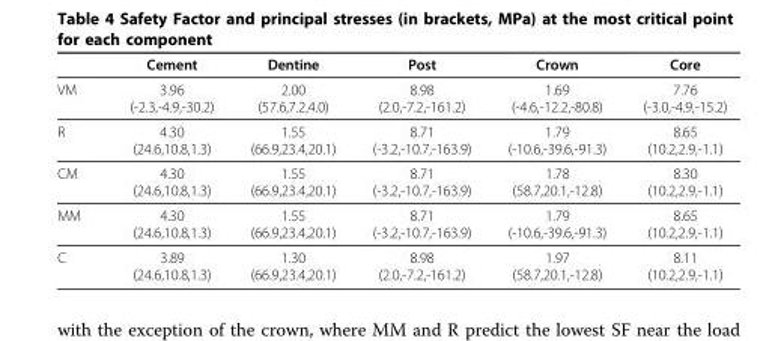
<table><thead><tr><td></td><td>Cement</td><td>Dentine</td><td>Post</td><td>Crown</td><td>Core</td></tr></thead><tbody><tr><td>VM</td><td>3.96 (-2.3,-4.9,-30.2)</td><td>2.00 (57.6,7.2,4.0)</td><td>8.98 (2.0,-7.2,-161.2)</td><td>1.69 (-4.6,-12.2,-80.8)</td><td>7.76 (-3.0,-4.9,-15.2)</td></tr><tr><td>R</td><td>4.30 (24.6,10.8,1.3)</td><td>1.55 (66.9,23.4,20.1)</td><td>8.71 (-3.2,-10.7,-163.9)</td><td>1.79 (-10.6,-39.6,-91.3)</td><td>8.65 (10.2,2.9,-1.1)</td></tr><tr><td>CM</td><td>4.30 (24.6,10.8,1.3)</td><td>1.55 (66.9,23.4,20.1)</td><td>8.71 (-3.2,-10.7,-163.9)</td><td>1.78 (58.7,20.1,-12.8)</td><td>8.30 (10.2,2.9,-1.1)</td></tr><tr><td>MM</td><td>4.30 (24.6,10.8,1.3)</td><td>1.55 (66.9,23.4,20.1)</td><td>8.71 (-3.2,-10.7,-163.9)</td><td>1.79 (-10.6,-39.6,-91.3)</td><td>8.65 (10.2,2.9,-1.1)</td></tr><tr><td>C</td><td>3.89 (24.6,10.8,1.3)</td><td>1.30 (66.9,23.4,20.1)</td><td>8.98 (2.0,-7.2,-161.2)</td><td>1.97 (58.7,20.1,-12.8)</td><td>8.11 (10.2,2.9,-1.1)</td></tr></tbody></table>